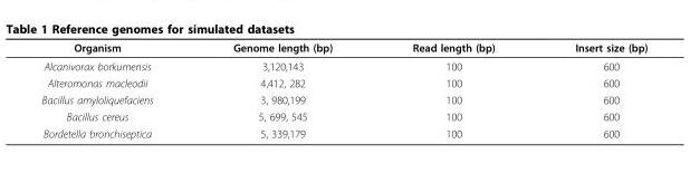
<table><thead><tr><td>Organism</td><td>Genome length (bp)</td><td>Read length (bp)</td><td>Insert size (bp)</td></tr></thead><tbody><tr><td>Alcanivorax borkumensis</td><td>3,120,143</td><td>100</td><td>600</td></tr><tr><td>Alteromonas macleodii</td><td>4,412, 282</td><td>100</td><td>600</td></tr><tr><td>Bacillus amyloliquefaciens</td><td>3, 980,199</td><td>100</td><td>600</td></tr><tr><td>Bacillus cereus</td><td>5, 699, 545</td><td>100</td><td>600</td></tr><tr><td>Bordetella bronchiseptica</td><td>5, 339,179</td><td>100</td><td>600</td></tr></tbody></table>